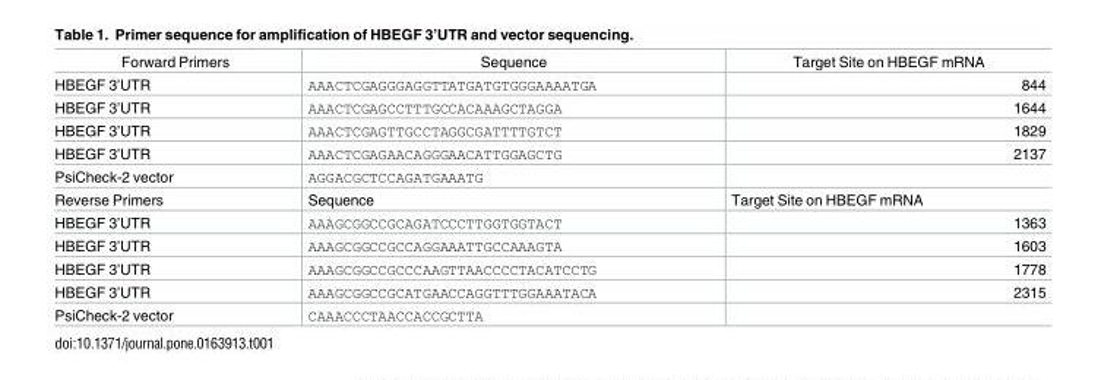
<table><tbody><tr><td>Forward Primers</td><td>Sequence</td><td>Target Site on HBEGF mRNA</td></tr><tr><td>HBEGF 3’UTR</td><td>AAACTCGAGGGAGGTTATGATGTGGGAAAATGA</td><td>844</td></tr><tr><td>HBEGF 3’UTR</td><td>AAACTCGAGCCTTTGCCACAAAGCTAGGA</td><td>1644</td></tr><tr><td>HBEGF 3’UTR</td><td>AAACTCGAGTTGCCTAGGCGATTTTGTCT</td><td>1829</td></tr><tr><td>HBEGF 3’UTR</td><td>AAACTCGAGAACAGGGAACATTGGAGCTG</td><td>2137</td></tr><tr><td>PsiCheck-2 vector</td><td>AGGACGCTCCAGATGAAATG</td><td></td></tr><tr><td>Reverse Primers</td><td>Sequence</td><td>Target Site on HBEGF mRNA</td></tr><tr><td>HBEGF 3’UTR</td><td>AAAGCGGCCGCAGATCCCTTGGTGGTACT</td><td>1363</td></tr><tr><td>HBEGF 3’UTR</td><td>AAAGCGGCCGCCAGGAAATTGCCAAAGTA</td><td>1603</td></tr><tr><td>HBEGF 3’UTR</td><td>AAAGCGGCCGCCCAAGTTAACCCCTACATCCTG</td><td>1778</td></tr><tr><td>HBEGF 3’UTR</td><td>AAAGCGGCCGCATGAACCAGGTTTGGAAATACA</td><td>2315</td></tr><tr><td>PsiCheck-2 vector</td><td>CAAACCCTAACCACCGCTTA</td><td></td></tr></tbody></table>